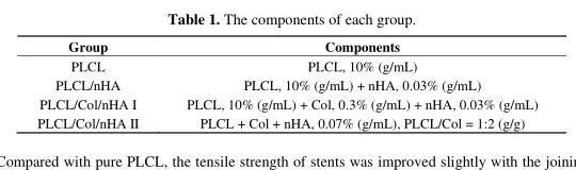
<table><thead><tr><td>Group</td><td>Components</td></tr></thead><tbody><tr><td>PLCL</td><td>PLCL, 10% (g/mL)</td></tr><tr><td>PLCL/nHA</td><td>PLCL, 10% (g/mL) + nHA, 0.03% (g/mL)</td></tr><tr><td>PLCL/Col/nHA I</td><td>PLCL, 10% (g/mL) + Col, 0.3% (g/mL) + nHA, 0.03% (g/mL)</td></tr><tr><td>PLCL/Col/nHA II</td><td>PLCL + Col + nHA, 0.07% (g/mL), PLCL/Col = 1:2 (g/g)</td></tr></tbody></table>